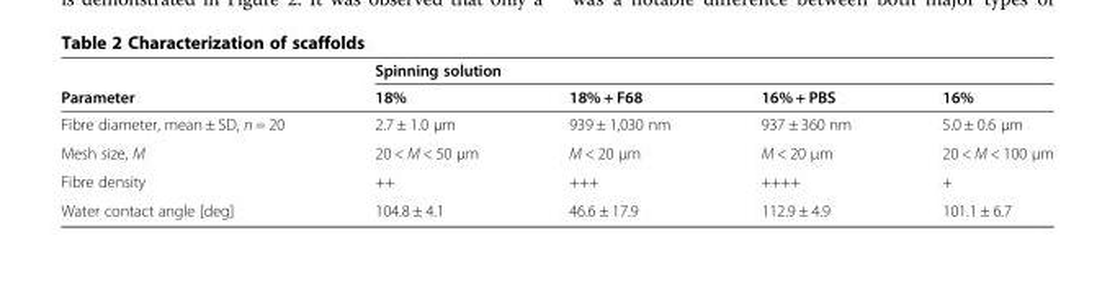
<table><thead><tr><td rowspan="2">Parameter</td><td colspan="4">Spinning solution</td></tr><tr><td>18%</td><td>18% + F68</td><td>16% + PBS</td><td>16%</td></tr></thead><tbody><tr><td>Fibre diameter, mean ± SD, n = 20</td><td>2.7 ± 1.0 μm</td><td>939 ± 1,030 nm</td><td>937 ± 360 nm</td><td>5.0 ± 0.6 μm</td></tr><tr><td>Mesh size, M</td><td>20 &lt; M &lt; 50 μm</td><td>M &lt; 20 μm</td><td>M &lt; 20 μm</td><td>20 &lt; M &lt; 100 μm</td></tr><tr><td>Fibre density</td><td>++</td><td>+++</td><td>++++</td><td>+</td></tr><tr><td>Water contact angle [deg]</td><td>104.8 ± 4.1</td><td>46.6 ± 17.9</td><td>112.9 ± 4.9</td><td>101.1 ± 6.7</td></tr></tbody></table>